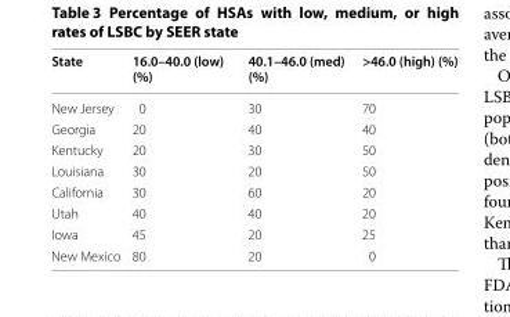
<table><thead><tr><td>State</td><td>16.0–40.0 (low) (%)</td><td>40.1–46.0 (med) (%)</td><td>&gt;46.0 (high) (%)</td></tr></thead><tbody><tr><td>New Jersey</td><td>0</td><td>30</td><td>70</td></tr><tr><td>Georgia</td><td>20</td><td>40</td><td>40</td></tr><tr><td>Kentucky</td><td>20</td><td>30</td><td>50</td></tr><tr><td>Louisiana</td><td>30</td><td>20</td><td>50</td></tr><tr><td>California</td><td>30</td><td>60</td><td>20</td></tr><tr><td>Utah</td><td>40</td><td>40</td><td>20</td></tr><tr><td>Iowa</td><td>45</td><td>20</td><td>25</td></tr><tr><td>New Mexico</td><td>80</td><td>20</td><td>0</td></tr></tbody></table>